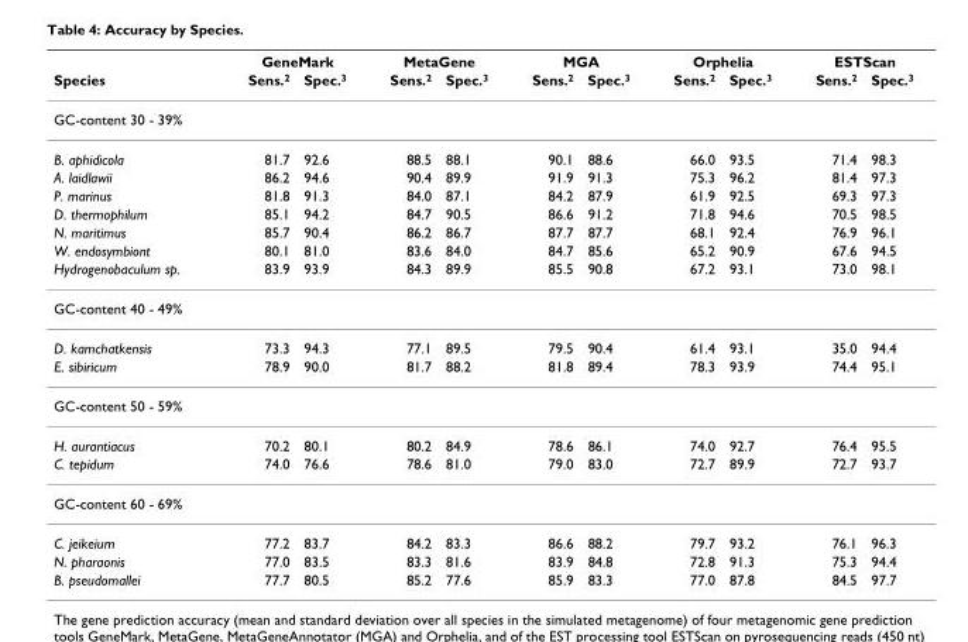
<table><thead><tr><td rowspan="2">Species</td><td colspan="2">GeneMark</td><td colspan="2">MetaGene</td><td colspan="2">MGA</td><td colspan="2">Orphelia</td><td colspan="2">ESTScan</td></tr><tr><td>Sens.<sup>2</sup></td><td>Spec.<sup>3</sup></td><td>Sens.<sup>2</sup></td><td>Spec.<sup>3</sup></td><td>Sens.<sup>2</sup></td><td>Spec.<sup>3</sup></td><td>Sens.<sup>2</sup></td><td>Spec.<sup>3</sup></td><td>Sens.<sup>2</sup></td><td>Spec.<sup>3</sup></td></tr></thead><tbody><tr><td colspan="11">GC-content 30 - 39%</td></tr><tr><td>B. aphidicola</td><td>81.7</td><td>92.6</td><td>88.5</td><td>88.1</td><td>90.1</td><td>88.6</td><td>66.0</td><td>93.5</td><td>71.4</td><td>98.3</td></tr><tr><td>A. laidlawii</td><td>86.2</td><td>94.6</td><td>90.4</td><td>89.9</td><td>91.9</td><td>91.3</td><td>75.3</td><td>96.2</td><td>81.4</td><td>97.3</td></tr><tr><td>P. marinus</td><td>81.8</td><td>91.3</td><td>84.0</td><td>87.1</td><td>84.2</td><td>87.9</td><td>61.9</td><td>92.5</td><td>69.3</td><td>97.3</td></tr><tr><td>D. thermophilum</td><td>85.1</td><td>94.2</td><td>84.7</td><td>90.5</td><td>86.6</td><td>91.2</td><td>71.8</td><td>94.6</td><td>70.5</td><td>98.5</td></tr><tr><td>N. maritimus</td><td>85.7</td><td>90.4</td><td>86.2</td><td>86.7</td><td>87.7</td><td>87.7</td><td>68.1</td><td>92.4</td><td>76.9</td><td>96.1</td></tr><tr><td>W. endosymbiont</td><td>80.1</td><td>81.0</td><td>83.6</td><td>84.0</td><td>84.7</td><td>85.6</td><td>65.2</td><td>90.9</td><td>67.6</td><td>94.5</td></tr><tr><td>Hydrogenobaculum sp.</td><td>83.9</td><td>93.9</td><td>84.3</td><td>89.9</td><td>85.5</td><td>90.8</td><td>67.2</td><td>93.1</td><td>73.0</td><td>98.1</td></tr><tr><td colspan="11">GC-content 40 - 49%</td></tr><tr><td>D. kamchatkensis</td><td>73.3</td><td>94.3</td><td>77.1</td><td>89.5</td><td>79.5</td><td>90.4</td><td>61.4</td><td>93.1</td><td>35.0</td><td>94.4</td></tr><tr><td>E. sibiricum</td><td>78.9</td><td>90.0</td><td>81.7</td><td>88.2</td><td>81.8</td><td>89.4</td><td>78.3</td><td>93.9</td><td>74.4</td><td>95.1</td></tr><tr><td colspan="11">GC-content 50 - 59%</td></tr><tr><td>H. aurantiacus</td><td>70.2</td><td>80.1</td><td>80.2</td><td>84.9</td><td>78.6</td><td>86.1</td><td>74.0</td><td>92.7</td><td>76.4</td><td>95.5</td></tr><tr><td>C. tepidum</td><td>74.0</td><td>76.6</td><td>78.6</td><td>81.0</td><td>79.0</td><td>83.0</td><td>72.7</td><td>89.9</td><td>72.7</td><td>93.7</td></tr><tr><td colspan="11">GC-content 60 - 69%</td></tr><tr><td>C. jeikeium</td><td>77.2</td><td>83.7</td><td>84.2</td><td>83.3</td><td>86.6</td><td>88.2</td><td>79.7</td><td>93.2</td><td>76.1</td><td>96.3</td></tr><tr><td>N. pharaonis</td><td>77.0</td><td>83.5</td><td>83.3</td><td>81.6</td><td>83.9</td><td>84.8</td><td>72.8</td><td>91.3</td><td>75.3</td><td>94.4</td></tr><tr><td>B. pseudomallei</td><td>77.7</td><td>80.5</td><td>85.2</td><td>77.6</td><td>85.9</td><td>83.3</td><td>77.0</td><td>87.8</td><td>84.5</td><td>97.7</td></tr></tbody></table>